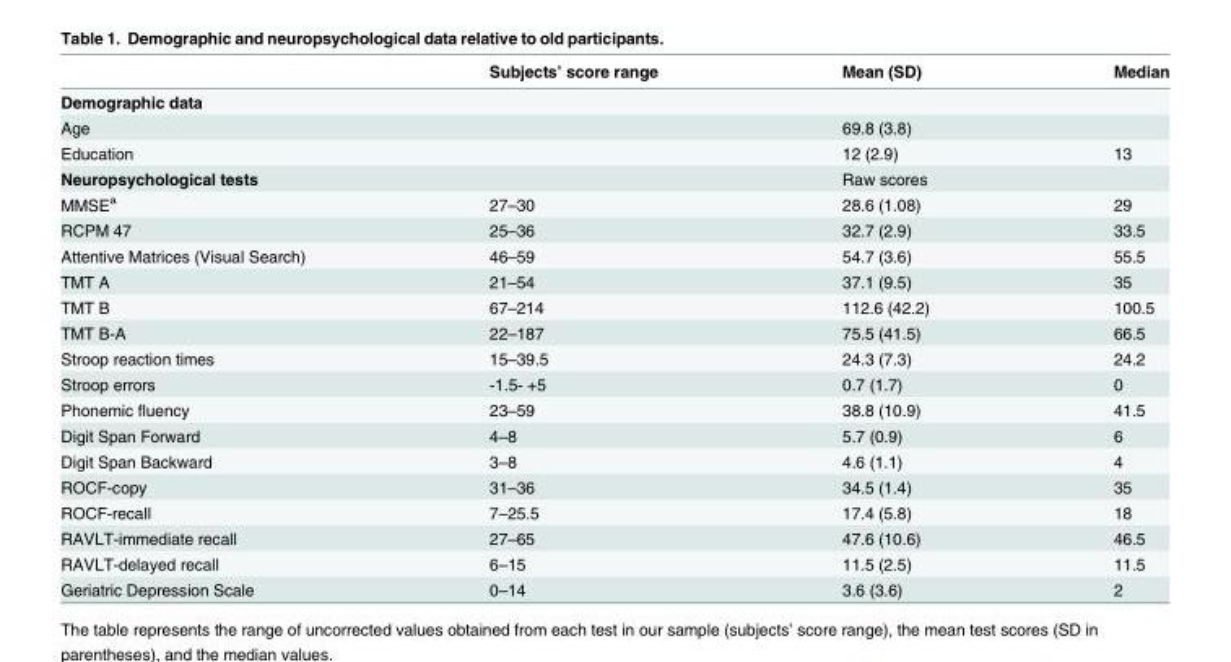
<table><thead><tr><td></td><td>Subjects’ score range</td><td>Mean (SD)</td><td>Median</td></tr></thead><tbody><tr><td colspan="4">Demographic data</td></tr><tr><td>Age</td><td></td><td>69.8 (3.8)</td><td></td></tr><tr><td>Education</td><td></td><td>12 (2.9)</td><td>13</td></tr><tr><td>Neuropsychological tests</td><td></td><td>Raw scores</td><td></td></tr><tr><td>MMSE<sup>a</sup></td><td>27–30</td><td>28.6 (1.08)</td><td>29</td></tr><tr><td>RCPM 47</td><td>25–36</td><td>32.7 (2.9)</td><td>33.5</td></tr><tr><td>Attentive Matrices (Visual Search)</td><td>46–59</td><td>54.7 (3.6)</td><td>55.5</td></tr><tr><td>TMT A</td><td>21–54</td><td>37.1 (9.5)</td><td>35</td></tr><tr><td>TMT B</td><td>67–214</td><td>112.6 (42.2)</td><td>100.5</td></tr><tr><td>TMT B-A</td><td>22–187</td><td>75.5 (41.5)</td><td>66.5</td></tr><tr><td>Stroop reaction times</td><td>15–39.5</td><td>24.3 (7.3)</td><td>24.2</td></tr><tr><td>Stroop errors</td><td>-1.5- +5</td><td>0.7 (1.7)</td><td>0</td></tr><tr><td>Phonemic fluency</td><td>23–59</td><td>38.8 (10.9)</td><td>41.5</td></tr><tr><td>Digit Span Forward</td><td>4–8</td><td>5.7 (0.9)</td><td>6</td></tr><tr><td>Digit Span Backward</td><td>3–8</td><td>4.6 (1.1)</td><td>4</td></tr><tr><td>ROCF-copy</td><td>31–36</td><td>34.5 (1.4)</td><td>35</td></tr><tr><td>ROCF-recall</td><td>7–25.5</td><td>17.4 (5.8)</td><td>18</td></tr><tr><td>RAVLT-immediate recall</td><td>27–65</td><td>47.6 (10.6)</td><td>46.5</td></tr><tr><td>RAVLT-delayed recall</td><td>6–15</td><td>11.5 (2.5)</td><td>11.5</td></tr><tr><td>Geriatric Depression Scale</td><td>0–14</td><td>3.6 (3.6)</td><td>2</td></tr></tbody></table>